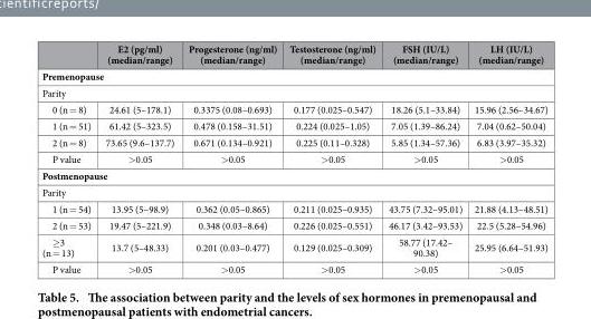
<table><thead><tr><td></td><td>E2 (pg/ml) (median/range)</td><td>Progesterone (ng/ml) (median/range)</td><td>Testosterone (ng/ml) (median/range)</td><td>FSH (IU/L) (median/range)</td><td>LH (IU/L) (median/range)</td></tr></thead><tbody><tr><td colspan="6">Premenopause</td></tr><tr><td colspan="6">Parity</td></tr><tr><td>0 (n = 8)</td><td>24.61 (5–178.1)</td><td>0.3375 (0.08–0.693)</td><td>0.177 (0.025–0.547)</td><td>18.26 (5.1–33.84)</td><td>15.96 (2.56–34.67)</td></tr><tr><td>1 (n = 51)</td><td>61.42 (5–323.5)</td><td>0.478 (0.158–31.51)</td><td>0.224 (0.025–1.05)</td><td>7.05 (1.39–86.24)</td><td>7.04 (0.62–50.04)</td></tr><tr><td>2 (n = 8)</td><td>73.65 (9.6–137.7)</td><td>0.671 (0.134–0.921)</td><td>0.225 (0.11–0.328)</td><td>5.85 (1.34–57.36)</td><td>6.83 (3.97–35.32)</td></tr><tr><td>P value</td><td>&gt; 0.05</td><td>&gt; 0.05</td><td>&gt; 0.05</td><td>&gt; 0.05</td><td>&gt; 0.05</td></tr><tr><td colspan="6">Postmenopause</td></tr><tr><td colspan="6">Parity</td></tr><tr><td>1 (n = 54)</td><td>13.95 (5–98.9)</td><td>0.362 (0.05–0.865)</td><td>0.211 (0.025–0.935)</td><td>43.75 (7.32–95.01)</td><td>21.88 (4.13–48.51)</td></tr><tr><td>2 (n = 53)</td><td>19.47 (5–221.9)</td><td>0.348 (0.03–8.64)</td><td>0.226 (0.025–0.551)</td><td>46.17 (3.42–93.53)</td><td>22.5 (5.28–54.96)</td></tr><tr><td>≥ 3 (n = 13)</td><td>13.7 (5–48.33)</td><td>0.201 (0.03–0.477)</td><td>0.129 (0.025–0.309)</td><td>58.77 (17.42– 90.38)</td><td>25.95 (6.64–51.93)</td></tr><tr><td>P value</td><td>&gt; 0.05</td><td>&gt; 0.05</td><td>&gt; 0.05</td><td>&gt; 0.05</td><td>&gt; 0.05</td></tr></tbody></table>